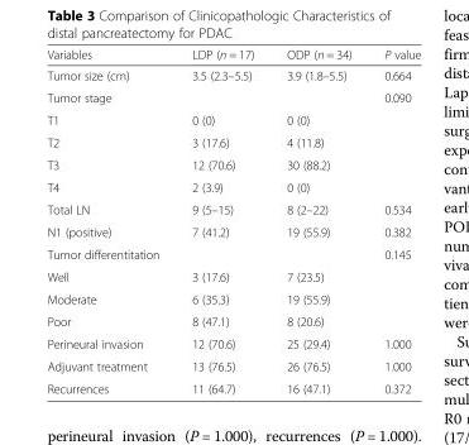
<table><thead><tr><td>Variables</td><td>LDP (n = 17)</td><td>ODP (n = 34)</td><td>P value</td></tr></thead><tbody><tr><td>Tumor size (cm)</td><td>3.5 (2.3–5.5)</td><td>3.9 (1.8–5.5)</td><td>0.664</td></tr><tr><td>Tumor stage</td><td></td><td></td><td>0.090</td></tr><tr><td>T1</td><td>0 (0)</td><td>0 (0)</td><td></td></tr><tr><td>T2</td><td>3 (17.6)</td><td>4 (11.8)</td><td></td></tr><tr><td>T3</td><td>12 (70.6)</td><td>30 (88.2)</td><td></td></tr><tr><td>T4</td><td>2 (3.9)</td><td>0 (0)</td><td></td></tr><tr><td>Total LN</td><td>9 (5–15)</td><td>8 (2–22)</td><td>0.534</td></tr><tr><td>N1 (positive)</td><td>7 (41.2)</td><td>19 (55.9)</td><td>0.382</td></tr><tr><td>Tumor differentitation</td><td></td><td></td><td>0.145</td></tr><tr><td>Well</td><td>3 (17.6)</td><td>7 (23.5)</td><td></td></tr><tr><td>Moderate</td><td>6 (35.3)</td><td>19 (55.9)</td><td></td></tr><tr><td>Poor</td><td>8 (47.1)</td><td>8 (20.6)</td><td></td></tr><tr><td>Perineural invasion</td><td>12 (70.6)</td><td>25 (29.4)</td><td>1.000</td></tr><tr><td>Adjuvant treatment</td><td>13 (76.5)</td><td>26 (76.5)</td><td>1.000</td></tr><tr><td>Recurrences</td><td>11 (64.7)</td><td>16 (47.1)</td><td>0.372</td></tr></tbody></table>